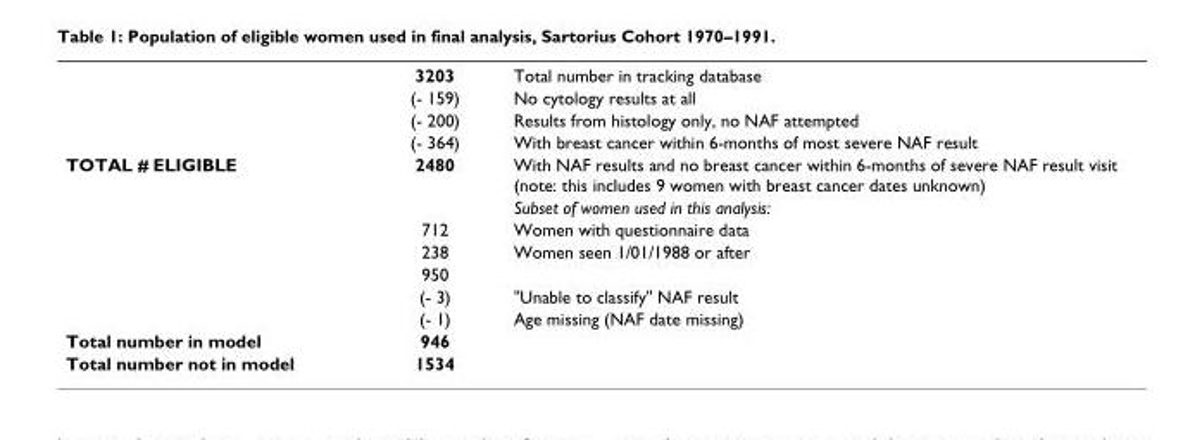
<table><thead><tr><td></td><td>3203</td><td>Total number in tracking database</td></tr></thead><tbody><tr><td></td><td>(- 159)</td><td>No cytology results at all</td></tr><tr><td></td><td>(- 200)</td><td>Results from histology only, no NAF attempted</td></tr><tr><td></td><td>(- 364)</td><td>With breast cancer within 6-months of most severe NAF result</td></tr><tr><td rowspan="7">TOTAL # ELIGIBLE</td><td>2480</td><td>With NAF results and no breast cancer within 6-months of severe NAF result visit (note: this includes 9 women with breast cancer dates unknown)</td></tr><tr><td></td><td>Subset of women used in this analysis:</td></tr><tr><td>712</td><td>Women with questionnaire data</td></tr><tr><td>238</td><td>Women seen 1/01/1988 or after</td></tr><tr><td>950</td><td></td></tr><tr><td>(- 3)</td><td>&quot;Unable to classify&quot; NAF result</td></tr><tr><td>(- 1)</td><td>Age missing (NAF date missing)</td></tr><tr><td>Total number in model</td><td>946</td><td></td></tr><tr><td>Total number not in model</td><td>1534</td><td></td></tr></tbody></table>